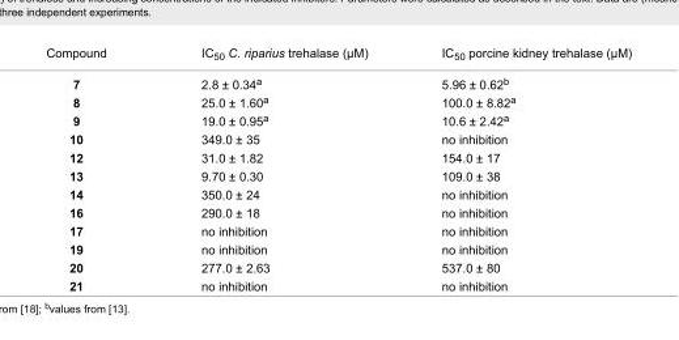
<table><tbody><tr><td>Compound</td><td>IC<sub>50</sub> C. riparius trehalase (µM)</td><td>IC<sub>50</sub> porcine kidney trehalase (µM)</td></tr><tr><td>7</td><td>2.8 ± 0.34<sup>a</sup></td><td>5.96 ± 0.62<sup>b</sup></td></tr><tr><td>8</td><td>25.0 ± 1.60<sup>a</sup></td><td>100.0 ± 8.82<sup>a</sup></td></tr><tr><td>9</td><td>19.0 ± 0.95<sup>a</sup></td><td>10.6 ± 2.42<sup>a</sup></td></tr><tr><td>10</td><td>349.0 ± 35</td><td>no inhibition</td></tr><tr><td>12</td><td>31.0 ± 1.82</td><td>154.0 ± 17</td></tr><tr><td>13</td><td>9.70 ± 0.30</td><td>109.0 ± 38</td></tr><tr><td>14</td><td>350.0 ± 24</td><td>no inhibition</td></tr><tr><td>16</td><td>290.0 ± 18</td><td>no inhibition</td></tr><tr><td>17</td><td>no inhibition</td><td>no inhibition</td></tr><tr><td>19</td><td>no inhibition</td><td>no inhibition</td></tr><tr><td>20</td><td>277.0 ± 2.63</td><td>537.0 ± 80</td></tr><tr><td>21</td><td>no inhibition</td><td>no inhibition</td></tr></tbody></table>